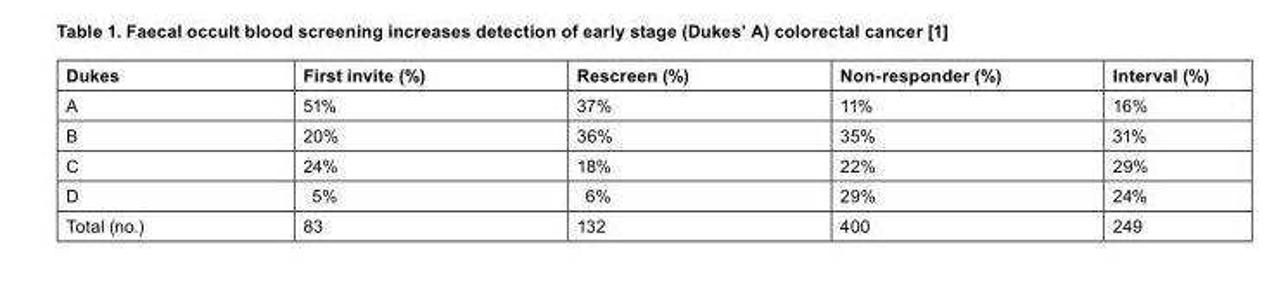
<table><thead><tr><td>Dukes</td><td>First invite (%)</td><td>Rescreen (%)</td><td>Non-responder (%)</td><td>Interval (%)</td></tr></thead><tbody><tr><td>A</td><td>51%</td><td>37%</td><td>11%</td><td>16%</td></tr><tr><td>B</td><td>20%</td><td>36%</td><td>35%</td><td>31%</td></tr><tr><td>C</td><td>24%</td><td>18%</td><td>22%</td><td>29%</td></tr><tr><td>D</td><td>5%</td><td>6%</td><td>29%</td><td>24%</td></tr><tr><td>Total (no.)</td><td>83</td><td>132</td><td>400</td><td>249</td></tr></tbody></table>